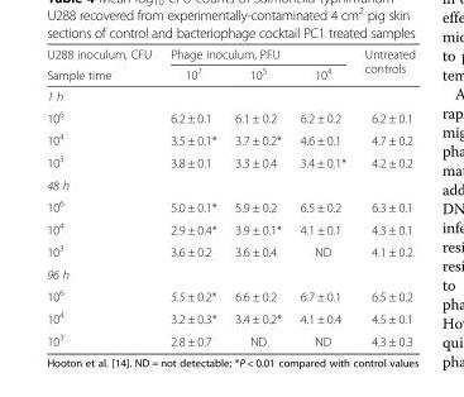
<table><thead><tr><td rowspan="2">U288 inoculum, CFU Sample time</td><td colspan="3">Phage inoculum, PFU</td><td rowspan="2">Untreated controls</td></tr><tr><td>10<sup>7</sup></td><td>10<sup>5</sup></td><td>10<sup>4</sup></td></tr></thead><tbody><tr><td colspan="5">1 h</td></tr><tr><td>10<sup>6</sup></td><td>6.2 ± 0.1</td><td>6.1 ± 0.2</td><td>6.2 ± 0.2</td><td>6.2 ± 0.1</td></tr><tr><td>10<sup>4</sup></td><td>3.5 ± 0.1*</td><td>3.7 ± 0.2*</td><td>4.6 ± 0.1</td><td>4.7 ± 0.2</td></tr><tr><td>10<sup>3</sup></td><td>3.8 ± 0.1</td><td>3.3 ± 0.4</td><td>3.4 ± 0.1*</td><td>4.2 ± 0.2</td></tr><tr><td colspan="5">48 h</td></tr><tr><td>10<sup>6</sup></td><td>5.0 ± 0.1*</td><td>5.9 ± 0.2</td><td>6.5 ± 0.2</td><td>6.3 ± 0.1</td></tr><tr><td>10<sup>4</sup></td><td>2.9 ± 0.4*</td><td>3.9 ± 0.1*</td><td>4.1 ± 0.1</td><td>4.3 ± 0.1</td></tr><tr><td>10<sup>3</sup></td><td>3.6 ± 0.2</td><td>3.6 ± 0.4</td><td>ND</td><td>4.1 ± 0.2</td></tr><tr><td colspan="5">96 h</td></tr><tr><td>10<sup>6</sup></td><td>5.5 ± 0.2*</td><td>6.6 ± 0.2</td><td>6.7 ± 0.1</td><td>6.5 ± 0.2</td></tr><tr><td>10<sup>4</sup></td><td>3.2 ± 0.3*</td><td>3.4 ± 0.2*</td><td>4.1 ± 0.4</td><td>4.5 ± 0.1</td></tr><tr><td>10<sup>3</sup></td><td>2.8 ± 0.7</td><td>ND</td><td>ND</td><td>4.3 ± 0.3</td></tr></tbody></table>